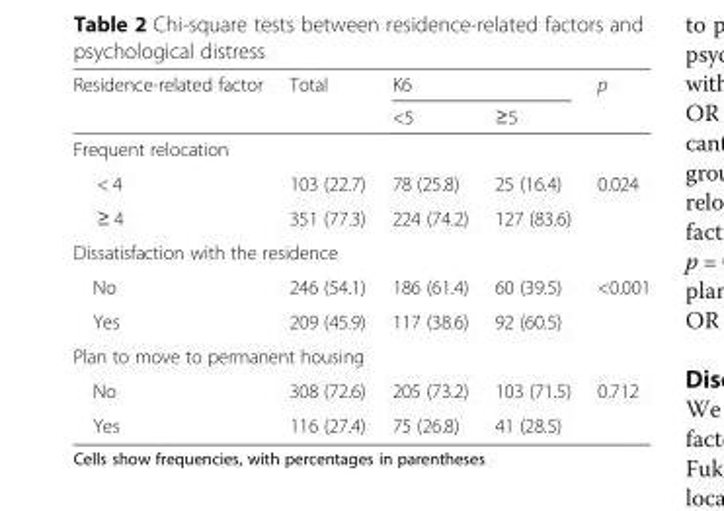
<table><thead><tr><td rowspan="2">Residence-related factor</td><td rowspan="2">Total</td><td colspan="2">K6</td><td rowspan="2">p</td></tr><tr><td>&lt;5</td><td>≥5</td></tr></thead><tbody><tr><td colspan="5">Frequent relocation</td></tr><tr><td>&lt; 4</td><td>103 (22.7)</td><td>78 (25.8)</td><td>25 (16.4)</td><td>0.024</td></tr><tr><td>≥ 4</td><td>351 (77.3)</td><td>224 (74.2)</td><td>127 (83.6)</td><td></td></tr><tr><td colspan="5">Dissatisfaction with the residence</td></tr><tr><td>No</td><td>246 (54.1)</td><td>186 (61.4)</td><td>60 (39.5)</td><td>&lt;0.001</td></tr><tr><td>Yes</td><td>209 (45.9)</td><td>117 (38.6)</td><td>92 (60.5)</td><td></td></tr><tr><td colspan="5">Plan to move to permanent housing</td></tr><tr><td>No</td><td>308 (72.6)</td><td>205 (73.2)</td><td>103 (71.5)</td><td>0.712</td></tr><tr><td>Yes</td><td>116 (27.4)</td><td>75 (26.8)</td><td>41 (28.5)</td><td></td></tr></tbody></table>